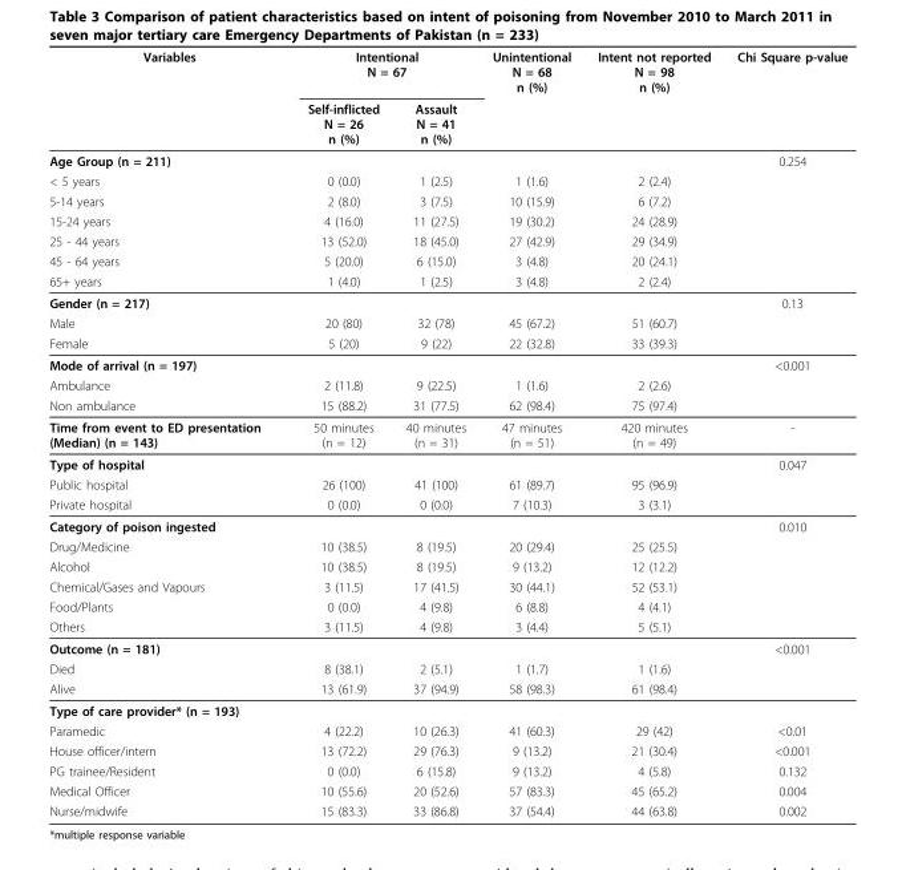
<table><thead><tr><td rowspan="2">Variables</td><td colspan="2">Intentional N = 67</td><td rowspan="2">Unintentional N = 68 n (%)</td><td rowspan="2">Intent not reported N = 98 n (%)</td><td rowspan="2">Chi Square p-value</td></tr><tr><td>Self-inflicted N = 26 n (%)</td><td>Assault N = 41 n (%)</td></tr></thead><tbody><tr><td>Age Group (n = 211)</td><td></td><td></td><td></td><td></td><td>0.254</td></tr><tr><td>&lt; 5 years</td><td>0 (0.0)</td><td>1 (2.5)</td><td>1 (1.6)</td><td>2 (2.4)</td><td></td></tr><tr><td>5-14 years</td><td>2 (8.0)</td><td>3 (7.5)</td><td>10 (15.9)</td><td>6 (7.2)</td><td></td></tr><tr><td>15-24 years</td><td>4 (16.0)</td><td>11 (27.5)</td><td>19 (30.2)</td><td>24 (28.9)</td><td></td></tr><tr><td>25 - 44 years</td><td>13 (52.0)</td><td>18 (45.0)</td><td>27 (42.9)</td><td>29 (34.9)</td><td></td></tr><tr><td>45 - 64 years</td><td>5 (20.0)</td><td>6 (15.0)</td><td>3 (4.8)</td><td>20 (24.1)</td><td></td></tr><tr><td>65+ years</td><td>1 (4.0)</td><td>1 (2.5)</td><td>3 (4.8)</td><td>2 (2.4)</td><td></td></tr><tr><td>Gender (n = 217)</td><td></td><td></td><td></td><td></td><td>0.13</td></tr><tr><td>Male</td><td>20 (80)</td><td>32 (78)</td><td>45 (67.2)</td><td>51 (60.7)</td><td></td></tr><tr><td>Female</td><td>5 (20)</td><td>9 (22)</td><td>22 (32.8)</td><td>33 (39.3)</td><td></td></tr><tr><td>Mode of arrival (n = 197)</td><td></td><td></td><td></td><td></td><td>&lt;0.001</td></tr><tr><td>Ambulance</td><td>2 (11.8)</td><td>9 (22.5)</td><td>1 (1.6)</td><td>2 (2.6)</td><td></td></tr><tr><td>Non ambulance</td><td>15 (88.2)</td><td>31 (77.5)</td><td>62 (98.4)</td><td>75 (97.4)</td><td></td></tr><tr><td>Time from event to ED presentation (Median) (n = 143)</td><td>50 minutes (n = 12)</td><td>40 minutes (n = 31)</td><td>47 minutes (n = 51)</td><td>420 minutes (n = 49)</td><td>-</td></tr><tr><td>Type of hospital</td><td></td><td></td><td></td><td></td><td>0.047</td></tr><tr><td>Public hospital</td><td>26 (100)</td><td>41 (100)</td><td>61 (89.7)</td><td>95 (96.9)</td><td></td></tr><tr><td>Private hospital</td><td>0 (0.0)</td><td>0 (0.0)</td><td>7 (10.3)</td><td>3 (3.1)</td><td></td></tr><tr><td>Category of poison ingested</td><td></td><td></td><td></td><td></td><td>0.010</td></tr><tr><td>Drug/Medicine</td><td>10 (38.5)</td><td>8 (19.5)</td><td>20 (29.4)</td><td>25 (25.5)</td><td></td></tr><tr><td>Alcohol</td><td>10 (38.5)</td><td>8 (19.5)</td><td>9 (13.2)</td><td>12 (12.2)</td><td></td></tr><tr><td>Chemical/Gases and Vapours</td><td>3 (11.5)</td><td>17 (41.5)</td><td>30 (44.1)</td><td>52 (53.1)</td><td></td></tr><tr><td>Food/Plants</td><td>0 (0.0)</td><td>4 (9.8)</td><td>6 (8.8)</td><td>4 (4.1)</td><td></td></tr><tr><td>Others</td><td>3 (11.5)</td><td>4 (9.8)</td><td>3 (4.4)</td><td>5 (5.1)</td><td></td></tr><tr><td>Outcome (n = 181)</td><td></td><td></td><td></td><td></td><td>&lt;0.001</td></tr><tr><td>Died</td><td>8 (38.1)</td><td>2 (5.1)</td><td>1 (1.7)</td><td>1 (1.6)</td><td></td></tr><tr><td>Alive</td><td>13 (61.9)</td><td>37 (94.9)</td><td>58 (98.3)</td><td>61 (98.4)</td><td></td></tr><tr><td colspan="6">Type of care provider* (n = 193)</td></tr><tr><td>Paramedic</td><td>4 (22.2)</td><td>10 (26.3)</td><td>41 (60.3)</td><td>29 (42)</td><td>&lt;0.01</td></tr><tr><td>House officer/intern</td><td>13 (72.2)</td><td>29 (76.3)</td><td>9 (13.2)</td><td>21 (30.4)</td><td>&lt;0.001</td></tr><tr><td>PG trainee/Resident</td><td>0 (0.0)</td><td>6 (15.8)</td><td>9 (13.2)</td><td>4 (5.8)</td><td>0.132</td></tr><tr><td>Medical Officer</td><td>10 (55.6)</td><td>20 (52.6)</td><td>57 (83.3)</td><td>45 (65.2)</td><td>0.004</td></tr><tr><td>Nurse/midwife</td><td>15 (83.3)</td><td>33 (86.8)</td><td>37 (54.4)</td><td>44 (63.8)</td><td>0.002</td></tr></tbody></table>